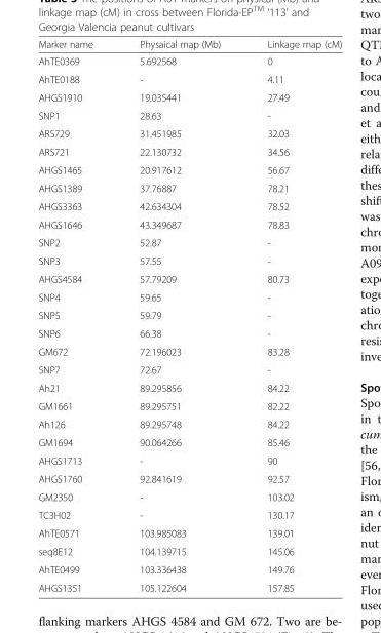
<table><thead><tr><td>Marker name</td><td>Physaical map (Mb)</td><td>Linkage map (cM)</td></tr></thead><tbody><tr><td>AhTE0369</td><td>5.692568</td><td>0</td></tr><tr><td>AhTE0188</td><td>-</td><td>4.11</td></tr><tr><td>AHGS1910</td><td>19.035441</td><td>27.49</td></tr><tr><td>SNP1</td><td>28.63</td><td>-</td></tr><tr><td>ARS729</td><td>31.451985</td><td>32.03</td></tr><tr><td>ARS721</td><td>22.130732</td><td>34.56</td></tr><tr><td>AHGS1465</td><td>20.917612</td><td>56.67</td></tr><tr><td>AHGS1389</td><td>37.76887</td><td>78.21</td></tr><tr><td>AHGS3363</td><td>42.634304</td><td>78.52</td></tr><tr><td>AHGS1646</td><td>43.349687</td><td>78.83</td></tr><tr><td>SNP2</td><td>52.87</td><td>-</td></tr><tr><td>SNP3</td><td>57.55</td><td>-</td></tr><tr><td>AHGS4584</td><td>57.79209</td><td>80.73</td></tr><tr><td>SNP4</td><td>59.65</td><td>-</td></tr><tr><td>SNP5</td><td>59.79</td><td>-</td></tr><tr><td>SNP6</td><td>66.38</td><td>-</td></tr><tr><td>GM672</td><td>72.196023</td><td>83.28</td></tr><tr><td>SNP7</td><td>72.67</td><td>-</td></tr><tr><td>Ah21</td><td>89.295856</td><td>84.22</td></tr><tr><td>GM1661</td><td>89.295751</td><td>82.22</td></tr><tr><td>Ah126</td><td>89.295748</td><td>84.22</td></tr><tr><td>GM1694</td><td>90.064266</td><td>85.46</td></tr><tr><td>AHGS1713</td><td>-</td><td>90</td></tr><tr><td>AHGS1760</td><td>92.841619</td><td>92.57</td></tr><tr><td>GM2350</td><td>-</td><td>103.02</td></tr><tr><td>TC3H02</td><td>-</td><td>130.17</td></tr><tr><td>AhTE0571</td><td>103.985083</td><td>139.01</td></tr><tr><td>seq8E12</td><td>104.139715</td><td>145.06</td></tr><tr><td>AhTE0499</td><td>103.336438</td><td>149.76</td></tr><tr><td>AHGS1351</td><td>105.122604</td><td>157.85</td></tr></tbody></table>